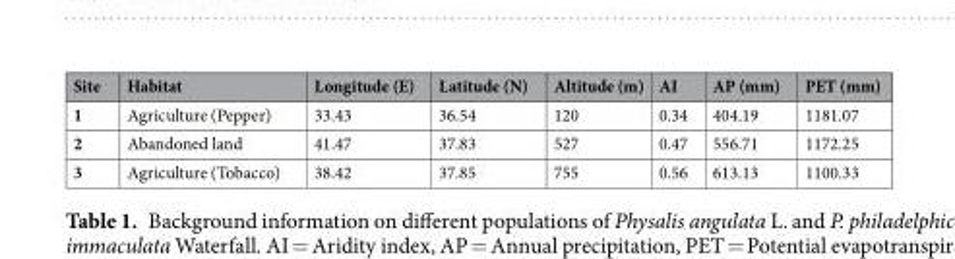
<table><thead><tr><td>Site</td><td>Habitat</td><td>Longitude (E)</td><td>Latitude (N)</td><td>Altitude (m)</td><td>AI</td><td>AP (mm)</td><td>PET (mm)</td></tr></thead><tbody><tr><td>1</td><td>Agriculture (Pepper)</td><td>33.43</td><td>36.54</td><td>120</td><td>0.34</td><td>404.19</td><td>1181.07</td></tr><tr><td>2</td><td>Abandoned land</td><td>41.47</td><td>37.83</td><td>527</td><td>0.47</td><td>556.71</td><td>1172.25</td></tr><tr><td>3</td><td>Agriculture (Tobacco)</td><td>38.42</td><td>37.85</td><td>755</td><td>0.56</td><td>613.13</td><td>1100.33</td></tr></tbody></table>